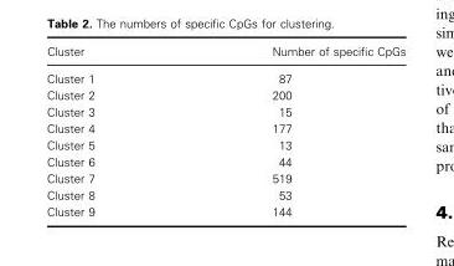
<table><thead><tr><td>Cluster</td><td>Number of specific CpGs</td></tr></thead><tbody><tr><td>Cluster 1</td><td>87</td></tr><tr><td>Cluster 2</td><td>200</td></tr><tr><td>Cluster 3</td><td>15</td></tr><tr><td>Cluster 4</td><td>177</td></tr><tr><td>Cluster 5</td><td>13</td></tr><tr><td>Cluster 6</td><td>44</td></tr><tr><td>Cluster 7</td><td>519</td></tr><tr><td>Cluster 8</td><td>53</td></tr><tr><td>Cluster 9</td><td>144</td></tr></tbody></table>